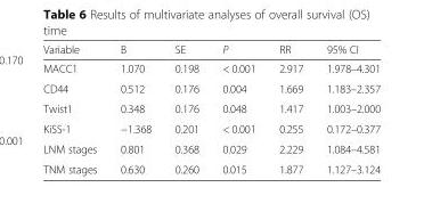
<table><thead><tr><td>Variable</td><td>B</td><td>SE</td><td>P</td><td>RR</td><td>95% CI</td></tr></thead><tbody><tr><td>MACC1</td><td>1.070</td><td>0.198</td><td>&lt; 0.001</td><td>2.917</td><td>1.978–4.301</td></tr><tr><td>CD44</td><td>0.512</td><td>0.176</td><td>0.004</td><td>1.669</td><td>1.183–2.357</td></tr><tr><td>Twist1</td><td>0.348</td><td>0.176</td><td>0.048</td><td>1.417</td><td>1.003–2.000</td></tr><tr><td>KiSS-1</td><td>−1.368</td><td>0.201</td><td>&lt; 0.001</td><td>0.255</td><td>0.172–0.377</td></tr><tr><td>LNM stages</td><td>0.801</td><td>0.368</td><td>0.029</td><td>2.229</td><td>1.084–4.581</td></tr><tr><td>TNM stages</td><td>0.630</td><td>0.260</td><td>0.015</td><td>1.877</td><td>1.127–3.124</td></tr></tbody></table>